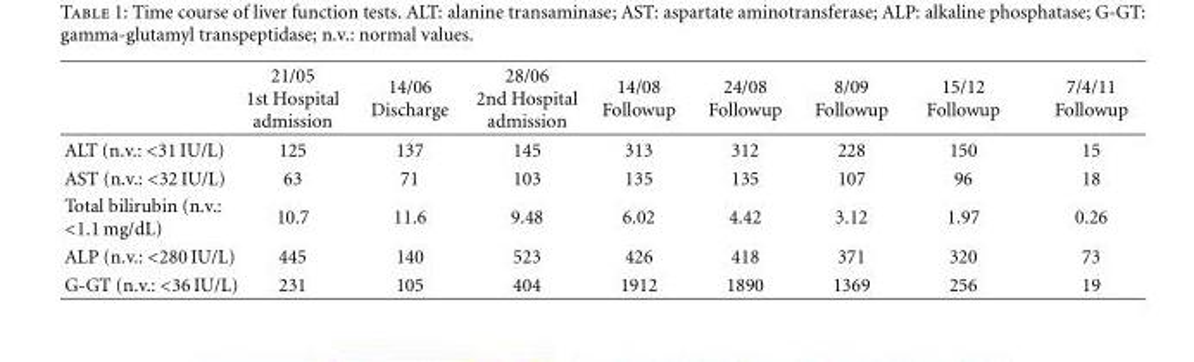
<table><thead><tr><td></td><td>21/05 1st Hospital admission</td><td>14/06 Discharge</td><td>28/06 2nd Hospital admission</td><td>14/08 Followup</td><td>24/08 Followup</td><td>8/09 Followup</td><td>15/12 Followup</td><td>7/4/11 Followup</td></tr></thead><tbody><tr><td>ALT (n.v.: &lt;31 IU/L)</td><td>125</td><td>137</td><td>145</td><td>313</td><td>312</td><td>228</td><td>150</td><td>15</td></tr><tr><td>AST (n.v.: &lt;32 IU/L)</td><td>63</td><td>71</td><td>103</td><td>135</td><td>135</td><td>107</td><td>96</td><td>18</td></tr><tr><td>Total bilirubin (n.v.: &lt;1.1 mg/dL)</td><td>10.7</td><td>11.6</td><td>9.48</td><td>6.02</td><td>4.42</td><td>3.12</td><td>1.97</td><td>0.26</td></tr><tr><td>ALP (n.v.: &lt;280 IU/L)</td><td>445</td><td>140</td><td>523</td><td>426</td><td>418</td><td>371</td><td>320</td><td>73</td></tr><tr><td>G-GT (n.v.: &lt;36 IU/L)</td><td>231</td><td>105</td><td>404</td><td>1912</td><td>1890</td><td>1369</td><td>256</td><td>19</td></tr></tbody></table>